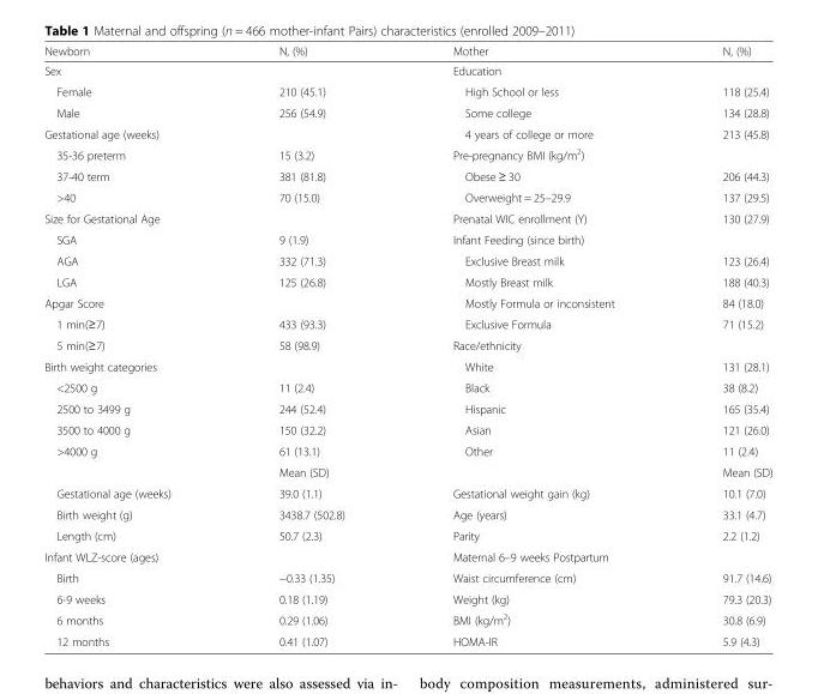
<table><thead><tr><td>Newborn</td><td>N, (%)</td><td>Mother</td><td>N, (%)</td></tr></thead><tbody><tr><td>Sex</td><td></td><td>Education</td><td></td></tr><tr><td>Female</td><td>210 (45.1)</td><td>High School or less</td><td>118 (25.4)</td></tr><tr><td>Male</td><td>256 (54.9)</td><td>Some college</td><td>134 (28.8)</td></tr><tr><td>Gestational age (weeks)</td><td></td><td>4 years of college or more</td><td>213 (45.8)</td></tr><tr><td>35-36 preterm</td><td>15 (3.2)</td><td>Pre-pregnancy BMI (kg/m<sup>2</sup>)</td><td></td></tr><tr><td>37-40 term</td><td>381 (81.8)</td><td>Obese ≥ 30</td><td>206 (44.3)</td></tr><tr><td>&gt;40</td><td>70 (15.0)</td><td>Overweight = 25–29.9</td><td>137 (29.5)</td></tr><tr><td>Size for Gestational Age</td><td></td><td>Prenatal WIC enrollment (Y)</td><td>130 (27.9)</td></tr><tr><td>SGA</td><td>9 (1.9)</td><td>Infant Feeding (since birth)</td><td></td></tr><tr><td>AGA</td><td>332 (71.3)</td><td>Exclusive Breast milk</td><td>123 (26.4)</td></tr><tr><td>LGA</td><td>125 (26.8)</td><td>Mostly Breast milk</td><td>188 (40.3)</td></tr><tr><td>Apgar Score</td><td></td><td>Mostly Formula or inconsistent</td><td>84 (18.0)</td></tr><tr><td>1 min(≥7)</td><td>433 (93.3)</td><td>Exclusive Formula</td><td>71 (15.2)</td></tr><tr><td>5 min(≥7)</td><td>58 (98.9)</td><td>Race/ethnicity</td><td></td></tr><tr><td>Birth weight categories</td><td></td><td>White</td><td>131 (28.1)</td></tr><tr><td>&lt;2500 g</td><td>11 (2.4)</td><td>Black</td><td>38 (8.2)</td></tr><tr><td>2500 to 3499 g</td><td>244 (52.4)</td><td>Hispanic</td><td>165 (35.4)</td></tr><tr><td>3500 to 4000 g</td><td>150 (32.2)</td><td>Asian</td><td>121 (26.0)</td></tr><tr><td rowspan="2">&gt;4000 g</td><td>61 (13.1)</td><td>Other</td><td>11 (2.4)</td></tr><tr><td>Mean (SD)</td><td></td><td>Mean (SD)</td></tr><tr><td>Gestational age (weeks)</td><td>39.0 (1.1)</td><td>Gestational weight gain (kg)</td><td>10.1 (7.0)</td></tr><tr><td>Birth weight (g)</td><td>3438.7 (502.8)</td><td>Age (years)</td><td>33.1 (4.7)</td></tr><tr><td>Length (cm)</td><td>50.7 (2.3)</td><td>Parity</td><td>2.2 (1.2)</td></tr><tr><td>Infant WLZ-score (ages)</td><td></td><td>Maternal 6–9 weeks Postpartum</td><td></td></tr><tr><td>Birth</td><td>−0.33 (1.35)</td><td>Waist circumference (cm)</td><td>91.7 (14.6)</td></tr><tr><td>6-9 weeks</td><td>0.18 (1.19)</td><td>Weight (kg)</td><td>79.3 (20.3)</td></tr><tr><td>6 months</td><td>0.29 (1.06)</td><td>BMI (kg/m<sup>2</sup>)</td><td>30.8 (6.9)</td></tr><tr><td>12 months</td><td>0.41 (1.07)</td><td>HOMA-IR</td><td>5.9 (4.3)</td></tr></tbody></table>